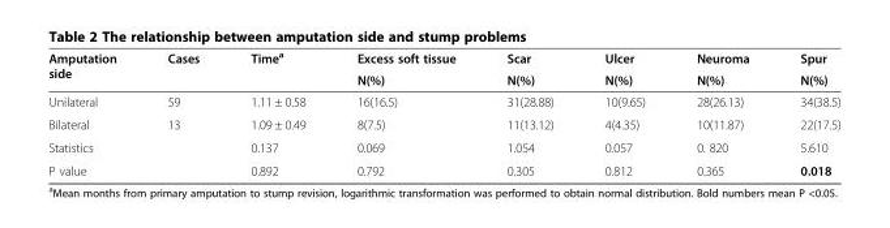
<table><thead><tr><td rowspan="2">Amputation side</td><td rowspan="2">Cases</td><td rowspan="2">Time<sup>a</sup></td><td rowspan="2">Excess soft tissue N(%)</td><td rowspan="2">Scar N(%)</td><td rowspan="2">Ulcer N(%)</td><td rowspan="2">Neuroma N(%)</td><td rowspan="2">Spur N(%)</td></tr><tr></tr></thead><tbody><tr><td>Unilateral</td><td>59</td><td>1.11 ± 0.58</td><td>16(16.5)</td><td>31(28.88)</td><td>10(9.65)</td><td>28(26.13)</td><td>34(38.5)</td></tr><tr><td>Bilateral</td><td>13</td><td>1.09 ± 0.49</td><td>8(7.5)</td><td>11(13.12)</td><td>4(4.35)</td><td>10(11.87)</td><td>22(17.5)</td></tr><tr><td>Statistics</td><td></td><td>0.137</td><td>0.069</td><td>1.054</td><td>0.057</td><td>0. 820</td><td>5.610</td></tr><tr><td>P value</td><td></td><td>0.892</td><td>0.792</td><td>0.305</td><td>0.812</td><td>0.365</td><td>0.018</td></tr></tbody></table>